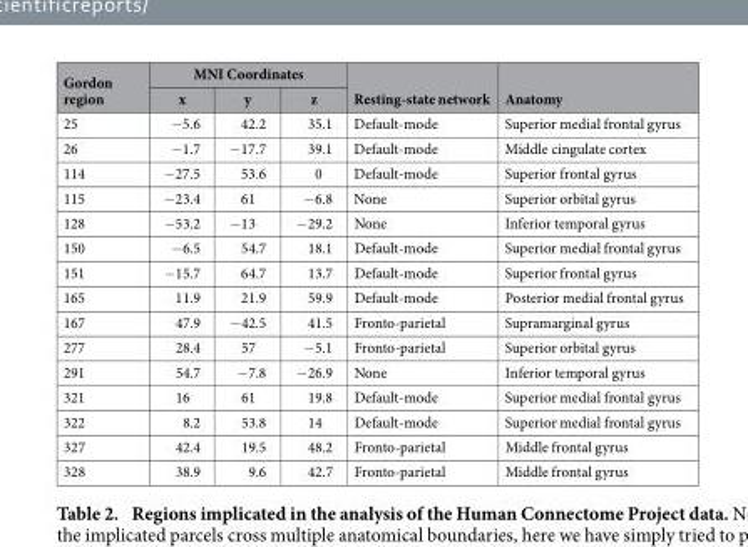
<table><thead><tr><td rowspan="2">Gordon region</td><td colspan="3">MNI Coordinates</td><td rowspan="2">Resting-state network</td><td rowspan="2">Anatomy</td></tr><tr><td>x</td><td>y</td><td>z</td></tr></thead><tbody><tr><td>25</td><td>− 5.6</td><td>42.2</td><td>35.1</td><td>Default-mode</td><td>Superior medial frontal gyrus</td></tr><tr><td>26</td><td>− 1.7</td><td>− 17.7</td><td>39.1</td><td>Default-mode</td><td>Middle cingulate cortex</td></tr><tr><td>114</td><td>− 27.5</td><td>53.6</td><td>0</td><td>Default-mode</td><td>Superior frontal gyrus</td></tr><tr><td>115</td><td>− 23.4</td><td>61</td><td>− 6.8</td><td>None</td><td>Superior orbital gyrus</td></tr><tr><td>128</td><td>− 53.2</td><td>− 13</td><td>− 29.2</td><td>None</td><td>Inferior temporal gyrus</td></tr><tr><td>150</td><td>− 6.5</td><td>54.7</td><td>18.1</td><td>Default-mode</td><td>Superior medial frontal gyrus</td></tr><tr><td>151</td><td>− 15.7</td><td>64.7</td><td>13.7</td><td>Default-mode</td><td>Superior frontal gyrus</td></tr><tr><td>165</td><td>11.9</td><td>21.9</td><td>59.9</td><td>Default-mode</td><td>Posterior medial frontal gyrus</td></tr><tr><td>167</td><td>47.9</td><td>− 42.5</td><td>41.5</td><td>Fronto-parietal</td><td>Supramarginal gyrus</td></tr><tr><td>277</td><td>28.4</td><td>57</td><td>− 5.1</td><td>Fronto-parietal</td><td>Superior orbital gyrus</td></tr><tr><td>291</td><td>54.7</td><td>− 7.8</td><td>− 26.9</td><td>None</td><td>Inferior temporal gyrus</td></tr><tr><td>321</td><td>16</td><td>61</td><td>19.8</td><td>Default-mode</td><td>Superior medial frontal gyrus</td></tr><tr><td>322</td><td>8.2</td><td>53.8</td><td>14</td><td>Default-mode</td><td>Superior medial frontal gyrus</td></tr><tr><td>327</td><td>42.4</td><td>19.5</td><td>48.2</td><td>Fronto-parietal</td><td>Middle frontal gyrus</td></tr><tr><td>328</td><td>38.9</td><td>9.6</td><td>42.7</td><td>Fronto-parietal</td><td>Middle frontal gyrus</td></tr></tbody></table>